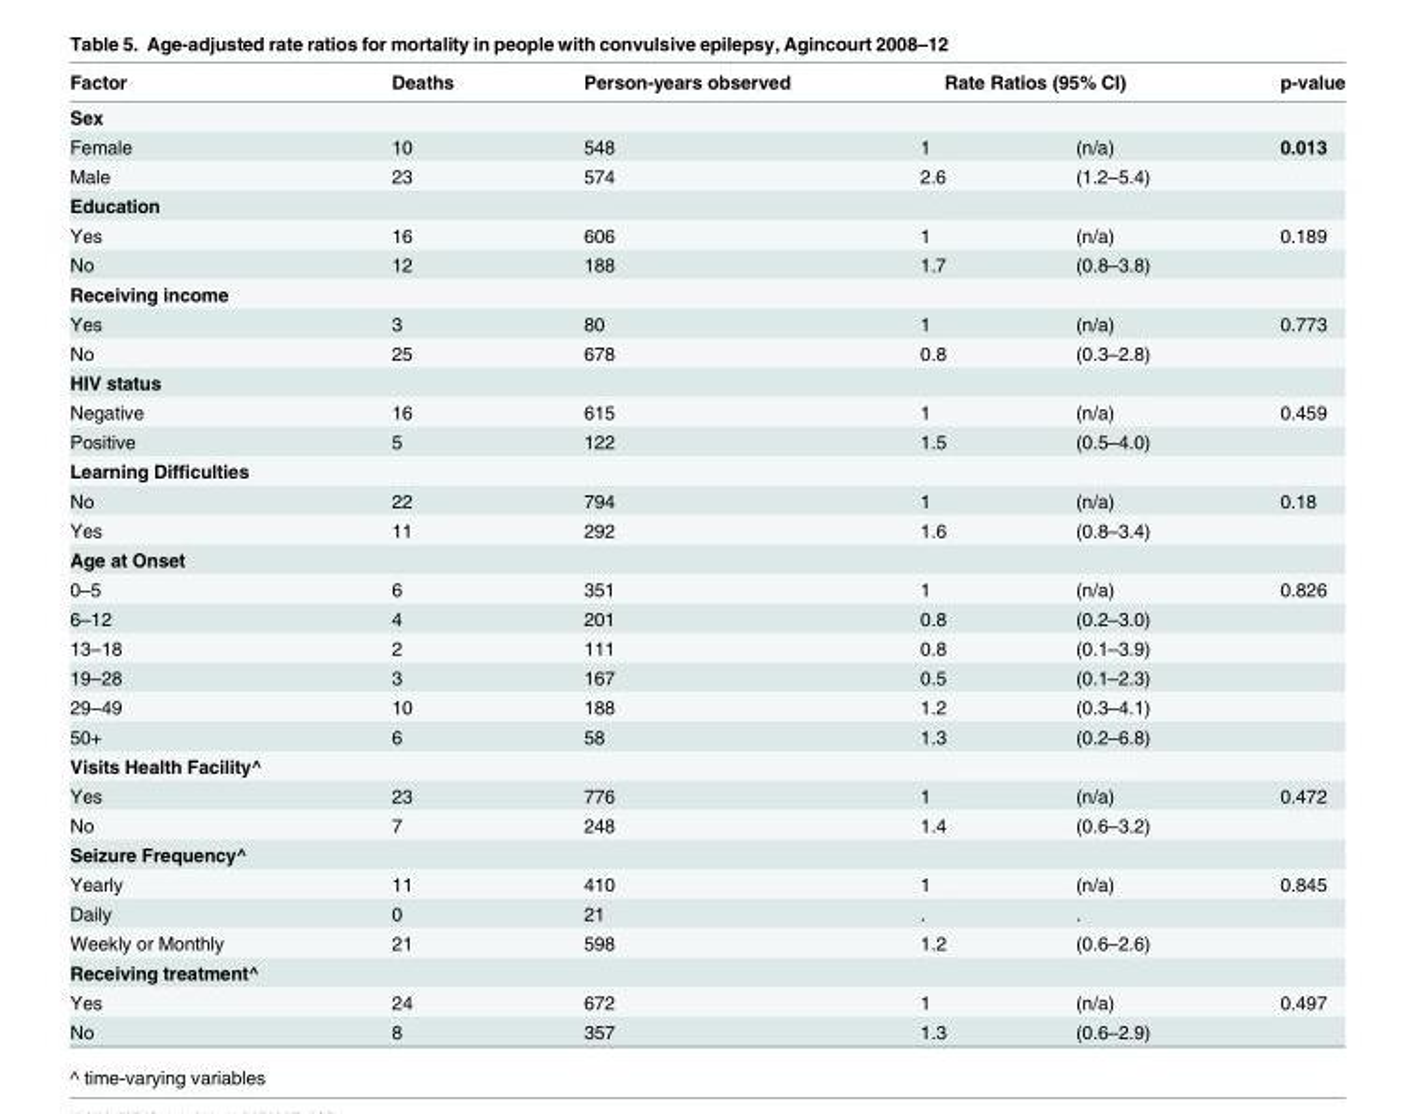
<table><thead><tr><td rowspan="2">Factor Sex</td><td rowspan="2">Deaths</td><td rowspan="2">Person-years observed</td><td colspan="2">Rate Ratios (95% CI)</td><td rowspan="2">p-value</td></tr><tr><td></td><td></td></tr></thead><tbody><tr><td>Female</td><td>10</td><td>548</td><td>1</td><td>(n/a)</td><td>0.013</td></tr><tr><td>Male</td><td>23</td><td>574</td><td>2.6</td><td>(1.2–5.4)</td><td></td></tr><tr><td colspan="6">Education</td></tr><tr><td>Yes</td><td>16</td><td>606</td><td>1</td><td>(n/a)</td><td>0.189</td></tr><tr><td>No</td><td>12</td><td>188</td><td>1.7</td><td>(0.8–3.8)</td><td></td></tr><tr><td colspan="6">Receiving income</td></tr><tr><td>Yes</td><td>3</td><td>80</td><td>1</td><td>(n/a)</td><td>0.773</td></tr><tr><td>No</td><td>25</td><td>678</td><td>0.8</td><td>(0.3–2.8)</td><td></td></tr><tr><td colspan="6">HIV status</td></tr><tr><td>Negative</td><td>16</td><td>615</td><td>1</td><td>(n/a)</td><td>0.459</td></tr><tr><td>Positive</td><td>5</td><td>122</td><td>1.5</td><td>(0.5–4.0)</td><td></td></tr><tr><td colspan="6">Learning Difficulties</td></tr><tr><td>No</td><td>22</td><td>794</td><td>1</td><td>(n/a)</td><td>0.18</td></tr><tr><td>Yes</td><td>11</td><td>292</td><td>1.6</td><td>(0.8–3.4)</td><td></td></tr><tr><td colspan="6">Age at Onset</td></tr><tr><td>0–5</td><td>6</td><td>351</td><td>1</td><td>(n/a)</td><td>0.826</td></tr><tr><td>6–12</td><td>4</td><td>201</td><td>0.8</td><td>(0.2–3.0)</td><td></td></tr><tr><td>13–18</td><td>2</td><td>111</td><td>0.8</td><td>(0.1–3.9)</td><td></td></tr><tr><td>19–28</td><td>3</td><td>167</td><td>0.5</td><td>(0.1–2.3)</td><td></td></tr><tr><td>29–49</td><td>10</td><td>188</td><td>1.2</td><td>(0.3–4.1)</td><td></td></tr><tr><td>50+</td><td>6</td><td>58</td><td>1.3</td><td>(0.2–6.8)</td><td></td></tr><tr><td colspan="6">Visits Health Facility^</td></tr><tr><td>Yes</td><td>23</td><td>776</td><td>1</td><td>(n/a)</td><td>0.472</td></tr><tr><td>No</td><td>7</td><td>248</td><td>1.4</td><td>(0.6–3.2)</td><td></td></tr><tr><td colspan="6">Seizure Frequency^</td></tr><tr><td>Yearly</td><td>11</td><td>410</td><td>1</td><td>(n/a)</td><td>0.845</td></tr><tr><td>Daily</td><td>0</td><td>21</td><td>.</td><td>.</td><td></td></tr><tr><td>Weekly or Monthly</td><td>21</td><td>598</td><td>1.2</td><td>(0.6–2.6)</td><td></td></tr><tr><td colspan="6">Receiving treatment^</td></tr><tr><td>Yes</td><td>24</td><td>672</td><td>1</td><td>(n/a)</td><td>0.497</td></tr><tr><td>No</td><td>8</td><td>357</td><td>1.3</td><td>(0.6–2.9)</td><td></td></tr></tbody></table>